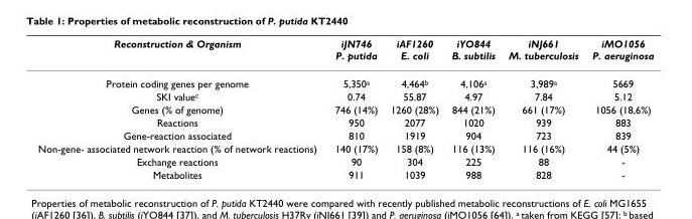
<table><thead><tr><td>Reconstruction &amp; Organism</td><td>iJN746 P. putida</td><td>iAF1260 E. coli</td><td>iYO844 B. subtilis</td><td>iNJ661 M. tuberculosis</td><td>iMO1056 P. aeruginosa</td></tr></thead><tbody><tr><td>Protein coding genes per genome</td><td>5,350<sup>a</sup></td><td>4,464<sup>b</sup></td><td>4,106<sup>a</sup></td><td>3,989<sup>a</sup></td><td>5669</td></tr><tr><td>SKI value<sup>c</sup></td><td>0.74</td><td>55.87</td><td>4.97</td><td>7.84</td><td>5.12</td></tr><tr><td>Genes (% of genome)</td><td>746 (14%)</td><td>1260 (28%)</td><td>844 (21%)</td><td>661 (17%)</td><td>1056 (18,6%)</td></tr><tr><td>Reactions</td><td>950</td><td>2077</td><td>1020</td><td>939</td><td>883</td></tr><tr><td>Gene-reaction associated</td><td>810</td><td>1919</td><td>904</td><td>723</td><td>839</td></tr><tr><td>Non-gene- associated network reaction (% of network reactions)</td><td>140 (17%)</td><td>158 (8%)</td><td>116 (13%)</td><td>116 (16%)</td><td>44 (5%)</td></tr><tr><td>Exchange reactions</td><td>90</td><td>304</td><td>225</td><td>88</td><td>-</td></tr><tr><td>Metabolites</td><td>911</td><td>1039</td><td>988</td><td>828</td><td>-</td></tr></tbody></table>